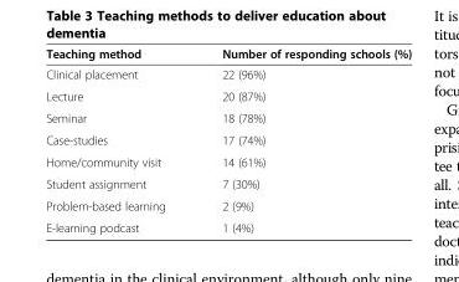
<table><thead><tr><td>Teaching method</td><td>Number of responding schools (%)</td></tr></thead><tbody><tr><td>Clinical placement</td><td>22 (96%)</td></tr><tr><td>Lecture</td><td>20 (87%)</td></tr><tr><td>Seminar</td><td>18 (78%)</td></tr><tr><td>Case-studies</td><td>17 (74%)</td></tr><tr><td>Home/community visit</td><td>14 (61%)</td></tr><tr><td>Student assignment</td><td>7 (30%)</td></tr><tr><td>Problem-based learning</td><td>2 (9%)</td></tr><tr><td>E-learning podcast</td><td>1 (4%)</td></tr></tbody></table>